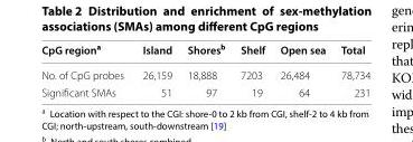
<table><thead><tr><td>CpG region<sup>a</sup></td><td>Island</td><td>Shores<sup>b</sup></td><td>Shelf</td><td>Open sea</td><td>Total</td></tr></thead><tbody><tr><td>No. of CpG probes</td><td>26,159</td><td>18,888</td><td>7203</td><td>26,484</td><td>78,734</td></tr><tr><td>Significant SMAs</td><td>51</td><td>97</td><td>19</td><td>64</td><td>231</td></tr></tbody></table>